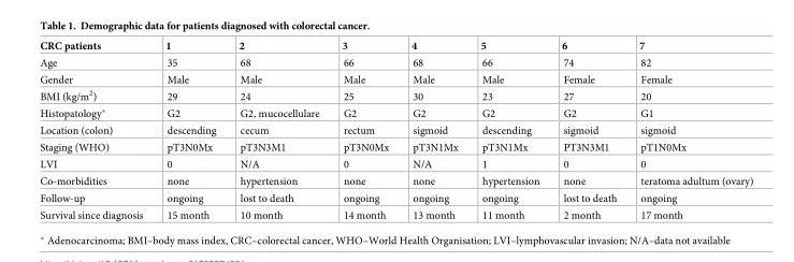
<table><thead><tr><td>CRC patients</td><td>1</td><td>2</td><td>3</td><td>4</td><td>5</td><td>6</td><td>7</td></tr></thead><tbody><tr><td>Age</td><td>35</td><td>68</td><td>66</td><td>68</td><td>66</td><td>74</td><td>82</td></tr><tr><td>Gender</td><td>Male</td><td>Male</td><td>Male</td><td>Male</td><td>Male</td><td>Female</td><td>Female</td></tr><tr><td>BMI (kg/m<sup>2</sup>)</td><td>29</td><td>24</td><td>25</td><td>30</td><td>23</td><td>27</td><td>20</td></tr><tr><td>Histopatology*</td><td>G2</td><td>G2, mucocellulare</td><td>G2</td><td>G2</td><td>G2</td><td>G2</td><td>G1</td></tr><tr><td>Location (colon)</td><td>descending</td><td>cecum</td><td>rectum</td><td>sigmoid</td><td>descending</td><td>sigmoid</td><td>sigmoid</td></tr><tr><td>Staging (WHO)</td><td>pT3N0Mx</td><td>pT3N3M1</td><td>pT3N0Mx</td><td>pT3N1Mx</td><td>pT3N1Mx</td><td>PT3N3M1</td><td>pT1N0Mx</td></tr><tr><td>LVI</td><td>0</td><td>N/A</td><td>0</td><td>N/A</td><td>1</td><td>0</td><td>0</td></tr><tr><td>Co-morbidities</td><td>none</td><td>hypertension</td><td>none</td><td>none</td><td>hypertension</td><td>none</td><td>teratoma adultum (ovary)</td></tr><tr><td>Follow-up</td><td>ongoing</td><td>lost to death</td><td>ongoing</td><td>ongoing</td><td>ongoing</td><td>lost to death</td><td>ongoing</td></tr><tr><td>Survival since diagnosis</td><td>15 month</td><td>10 month</td><td>14 month</td><td>13 month</td><td>11 month</td><td>2 month</td><td>17 month</td></tr></tbody></table>